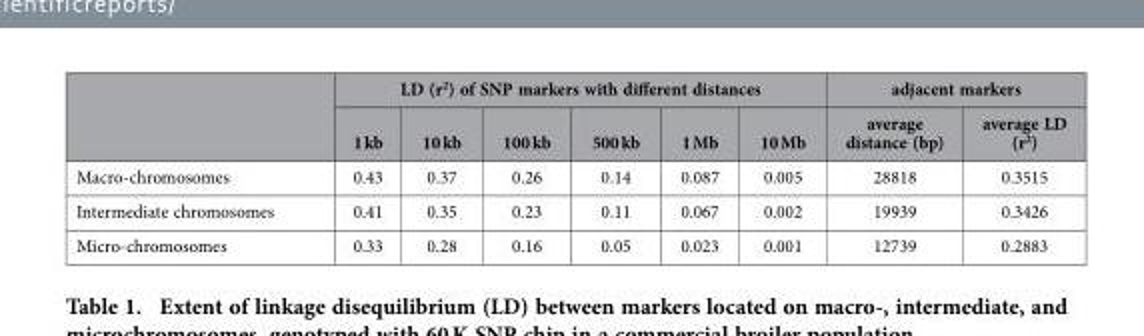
<table><thead><tr><td rowspan="2"></td><td colspan="6">LD (r<sup>2</sup>) of SNP markers with different distances</td><td colspan="2">adjacent markers</td></tr><tr><td>1 kb</td><td>10 kb</td><td>100 kb</td><td>500 kb</td><td>1 Mb</td><td>10 Mb</td><td>average distance (bp)</td><td>average LD (r<sup>2</sup>)</td></tr></thead><tbody><tr><td>Macro-chromosomes</td><td>0.43</td><td>0.37</td><td>0.26</td><td>0.14</td><td>0.087</td><td>0.005</td><td>28818</td><td>0.3515</td></tr><tr><td>Intermediate chromosomes</td><td>0.41</td><td>0.35</td><td>0.23</td><td>0.11</td><td>0.067</td><td>0.002</td><td>19939</td><td>0.3426</td></tr><tr><td>Micro-chromosomes</td><td>0.33</td><td>0.28</td><td>0.16</td><td>0.05</td><td>0.023</td><td>0.001</td><td>12739</td><td>0.2883</td></tr></tbody></table>